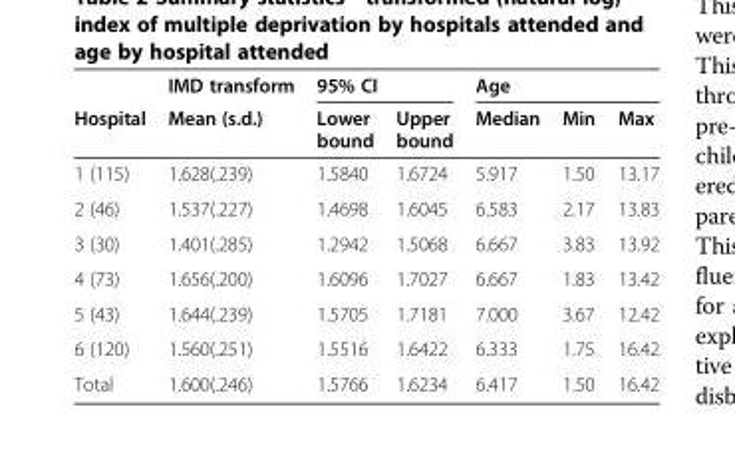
<table><thead><tr><td rowspan="2">Hospital</td><td rowspan="2">IMD transform Mean (s.d.)</td><td colspan="2">95% CI</td><td colspan="3">Age</td></tr><tr><td>Lower bound</td><td>Upper bound</td><td>Median</td><td>Min</td><td>Max</td></tr></thead><tbody><tr><td>1 (115)</td><td>1.628(.239)</td><td>1.5840</td><td>1.6724</td><td>5.917</td><td>1.50</td><td>13.17</td></tr><tr><td>2 (46)</td><td>1.537(.227)</td><td>1.4698</td><td>1.6045</td><td>6.583</td><td>2.17</td><td>13.83</td></tr><tr><td>3 (30)</td><td>1.401(.285)</td><td>1.2942</td><td>1.5068</td><td>6.667</td><td>3.83</td><td>13.92</td></tr><tr><td>4 (73)</td><td>1.656(.200)</td><td>1.6096</td><td>1.7027</td><td>6.667</td><td>1.83</td><td>13.42</td></tr><tr><td>5 (43)</td><td>1.644(.239)</td><td>1.5705</td><td>1.7181</td><td>7.000</td><td>3.67</td><td>12.42</td></tr><tr><td>6 (120)</td><td>1.560(.251)</td><td>1.5516</td><td>1.6422</td><td>6.333</td><td>1.75</td><td>16.42</td></tr><tr><td>Total</td><td>1.600(.246)</td><td>1.5766</td><td>1.6234</td><td>6.417</td><td>1.50</td><td>16.42</td></tr></tbody></table>